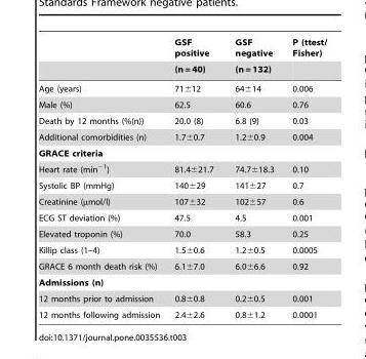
<table><thead><tr><td rowspan="2"></td><td rowspan="2">GSF positive (n = 40)</td><td rowspan="2">GSF negative (n = 132)</td><td rowspan="2">P (ttest/ Fisher)</td></tr><tr></tr></thead><tbody><tr><td>Age (years)</td><td>71±12</td><td>64±14</td><td>0.006</td></tr><tr><td>Male (%)</td><td>62.5</td><td>60.6</td><td>0.76</td></tr><tr><td>Death by 12 months (%(n))</td><td>20.0 (8)</td><td>6.8 (9)</td><td>0.03</td></tr><tr><td>Additional comorbidities (n)</td><td>1.7±0.7</td><td>1.2±0.9</td><td>0.004</td></tr><tr><td colspan="4">GRACE criteria</td></tr><tr><td>Heart rate (min<sup>−1</sup>)</td><td>81.4±21.7</td><td>74.7±18.3</td><td>0.10</td></tr><tr><td>Systolic BP (mmHg)</td><td>140±29</td><td>141±27</td><td>0.7</td></tr><tr><td>Creatinine (µmol/l)</td><td>107±32</td><td>102±57</td><td>0.6</td></tr><tr><td>ECG ST deviation (%)</td><td>47.5</td><td>4.5</td><td>0.001</td></tr><tr><td>Elevated troponin (%)</td><td>70.0</td><td>58.3</td><td>0.25</td></tr><tr><td>Killip class (1–4)</td><td>1.5±0.6</td><td>1.2±0.5</td><td>0.0005</td></tr><tr><td>GRACE 6 month death risk (%)</td><td>6.1±7.0</td><td>6.0±6.6</td><td>0.92</td></tr><tr><td colspan="4">Admissions (n)</td></tr><tr><td>12 months prior to admission</td><td>0.8±0.8</td><td>0.2±0.5</td><td>0.001</td></tr><tr><td>12 months following admission</td><td>2.4±2.6</td><td>0.8±1.2</td><td>0.0001</td></tr></tbody></table>